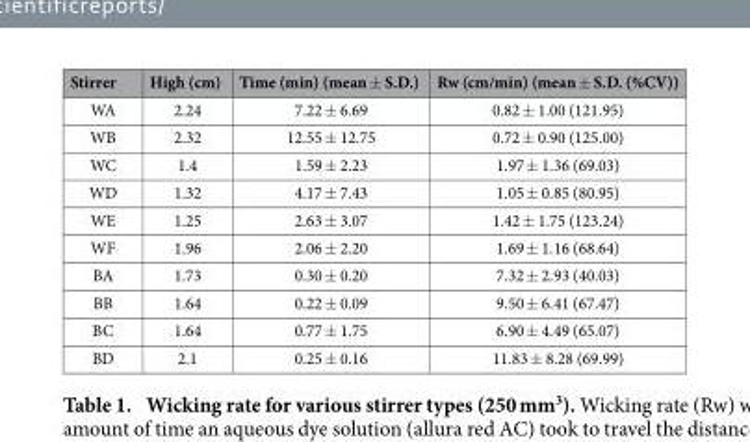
<table><thead><tr><td>Stirrer</td><td>High (cm)</td><td>Time (min) (mean ± S.D.)</td><td>Rw (cm/min) (mean ± S.D. (%CV))</td></tr></thead><tbody><tr><td>WA</td><td>2.24</td><td>7.22 ± 6.69</td><td>0.82 ± 1.00 (121.95)</td></tr><tr><td>WB</td><td>2.32</td><td>12.55 ± 12.75</td><td>0.72 ± 0.90 (125.00)</td></tr><tr><td>WC</td><td>1.4</td><td>1.59 ± 2.23</td><td>1.97 ± 1.36 (69.03)</td></tr><tr><td>WD</td><td>1.32</td><td>4.17 ± 7.43</td><td>1.05 ± 0.85 (80.95)</td></tr><tr><td>WE</td><td>1.25</td><td>2.63 ± 3.07</td><td>1.42 ± 1.75 (123.24)</td></tr><tr><td>WF</td><td>1.96</td><td>2.06 ± 2.20</td><td>1.69 ± 1.16 (68.64)</td></tr><tr><td>BA</td><td>1.73</td><td>0.30 ± 0.20</td><td>7.32 ± 2.93 (40.03)</td></tr><tr><td>BB</td><td>1.64</td><td>0.22 ± 0.09</td><td>9.50 ± 6.41 (67.47)</td></tr><tr><td>BC</td><td>1.64</td><td>0.77 ± 1.75</td><td>6.90 ± 4.49 (65.07)</td></tr><tr><td>BD</td><td>2.1</td><td>0.25 ± 0.16</td><td>11.83 ± 8.28 (69.99)</td></tr></tbody></table>